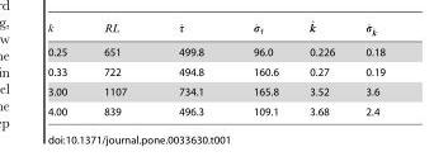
<table><tbody><tr><td>0.25</td><td>651</td><td>499.8</td><td>96.0</td><td>0.226</td><td>0.18</td></tr><tr><td>0.33</td><td>722</td><td>494.8</td><td>160.6</td><td>0.27</td><td>0.19</td></tr><tr><td>3.00</td><td>1107</td><td>734.1</td><td>165.8</td><td>3.52</td><td>3.6</td></tr><tr><td>4.00</td><td>839</td><td>496.3</td><td>109.1</td><td>3.68</td><td>2.4</td></tr></tbody></table>